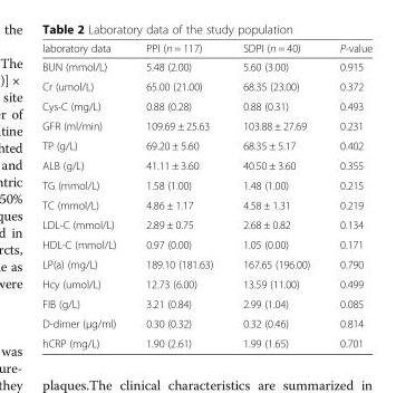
<table><thead><tr><td>laboratory data</td><td>PPI (n = 117)</td><td>SDPI (n = 40)</td><td>P-value</td></tr></thead><tbody><tr><td>BUN (mmol/L)</td><td>5.48 (2.00)</td><td>5.60 (3.00)</td><td>0.915</td></tr><tr><td>Cr (umol/L)</td><td>65.00 (21.00)</td><td>68.35 (23.00)</td><td>0.372</td></tr><tr><td>Cys-C (mg/L)</td><td>0.88 (0.28)</td><td>0.88 (0.31)</td><td>0.493</td></tr><tr><td>GFR (ml/min)</td><td>109.69 ± 25.63</td><td>103.88 ± 27.69</td><td>0.231</td></tr><tr><td>TP (g/L)</td><td>69.20 ± 5.60</td><td>68.35 ± 5.17</td><td>0.402</td></tr><tr><td>ALB (g/L)</td><td>41.11 ± 3.60</td><td>40.50 ± 3.60</td><td>0.355</td></tr><tr><td>TG (mmol/L)</td><td>1.58 (1.00)</td><td>1.48 (1.00)</td><td>0.215</td></tr><tr><td>TC (mmol/L)</td><td>4.86 ± 1.17</td><td>4.58 ± 1.31</td><td>0.219</td></tr><tr><td>LDL-C (mmol/L)</td><td>2.89 ± 0.75</td><td>2.68 ± 0.82</td><td>0.134</td></tr><tr><td>HDL-C (mmol/L)</td><td>0.97 (0.00)</td><td>1.05 (0.00)</td><td>0.171</td></tr><tr><td>LP(a) (mg/L)</td><td>189.10 (181.63)</td><td>167.65 (196.00)</td><td>0.790</td></tr><tr><td>Hcy (umol/L)</td><td>12.73 (6.00)</td><td>13.59 (11.00)</td><td>0.499</td></tr><tr><td>FIB (g/L)</td><td>3.21 (0.84)</td><td>2.99 (1.04)</td><td>0.085</td></tr><tr><td>D-dimer (μg/ml)</td><td>0.30 (0.32)</td><td>0.32 (0.46)</td><td>0.814</td></tr><tr><td>hCRP (mg/L)</td><td>1.90 (2.61)</td><td>1.99 (1.65)</td><td>0.701</td></tr></tbody></table>